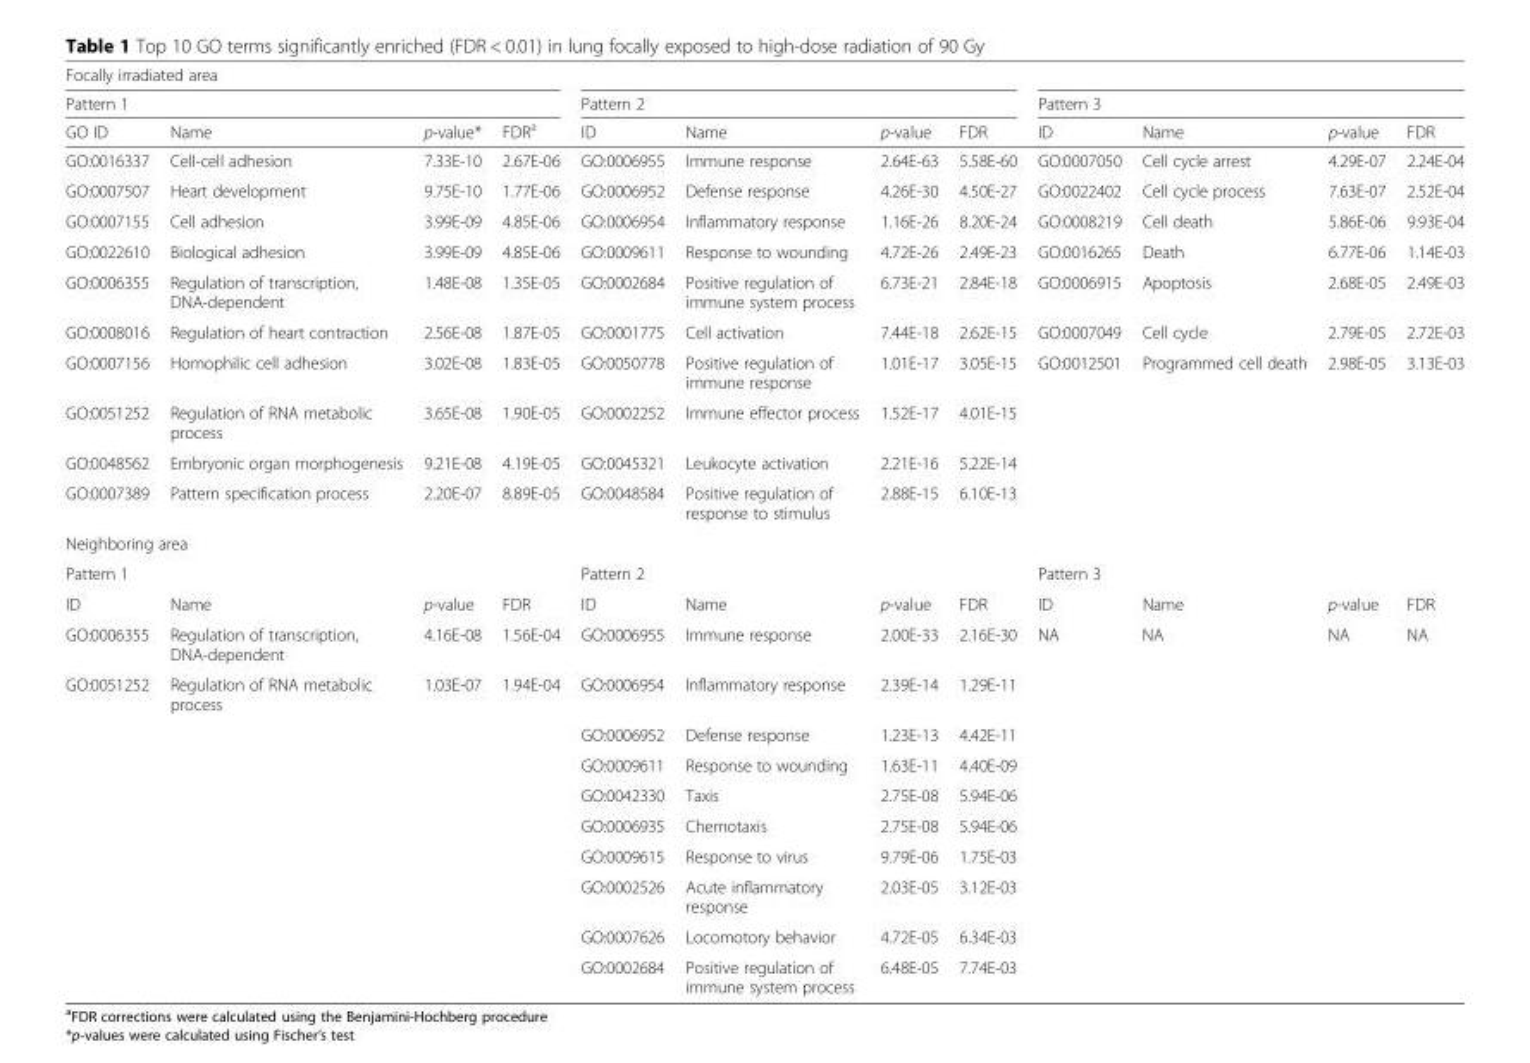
<table><thead><tr><td rowspan="2" colspan="4">Focally irradiated area Pattern 1</td><td></td><td></td><td></td><td></td><td></td><td></td><td></td><td></td></tr><tr><td colspan="4">Pattern 2</td><td colspan="4">Pattern 3</td></tr><tr><td>GO ID</td><td>Name</td><td>p-value*</td><td>FDR<sup>a</sup></td><td>ID</td><td>Name</td><td>p-value</td><td>FDR</td><td>ID</td><td>Name</td><td>p-value</td><td>FDR</td></tr></thead><tbody><tr><td>GO:0016337</td><td>Cell-cell adhesion</td><td>7.33E-10</td><td>2.67E-06</td><td>GO:0006955</td><td>Immune response</td><td>2.64E-63</td><td>5.58E-60</td><td>GO:0007050</td><td>Cell cycle arrest</td><td>4.29E-07</td><td>2.24E-04</td></tr><tr><td>GO:0007507</td><td>Heart development</td><td>9.75E-10</td><td>1.77E-06</td><td>GO:0006952</td><td>Defense response</td><td>4.26E-30</td><td>4.50E-27</td><td>GO:0022402</td><td>Cell cycle process</td><td>7.63E-07</td><td>2.52E-04</td></tr><tr><td>GO:0007155</td><td>Cell adhesion</td><td>3.99E-09</td><td>4.85E-06</td><td>GO:0006954</td><td>Inflammatory response</td><td>1.16E-26</td><td>8.20E-24</td><td>GO:0008219</td><td>Cell death</td><td>5.86E-06</td><td>9.93E-04</td></tr><tr><td>GO:0022610</td><td>Biological adhesion</td><td>3.99E-09</td><td>4.85E-06</td><td>GO:0009611</td><td>Response to wounding</td><td>4.72E-26</td><td>2.49E-23</td><td>GO:0016265</td><td>Death</td><td>6.77E-06</td><td>1.14E-03</td></tr><tr><td>GO:0006355</td><td>Regulation of transcription, DNA-dependent</td><td>1.48E-08</td><td>1.35E-05</td><td>GO:0002684</td><td>Positive regulation of immune system process</td><td>6.73E-21</td><td>2.84E-18</td><td>GO:0006915</td><td>Apoptosis</td><td>2.68E-05</td><td>2.49E-03</td></tr><tr><td>GO:0008016</td><td>Regulation of heart contraction</td><td>2.56E-08</td><td>1.87E-05</td><td>GO:0001775</td><td>Cell activation</td><td>7.44E-18</td><td>2.62E-15</td><td>GO:0007049</td><td>Cell cycle</td><td>2.79E-05</td><td>2.72E-03</td></tr><tr><td>GO:0007156</td><td>Homophilic cell adhesion</td><td>3.02E-08</td><td>1.83E-05</td><td>GO:0050778</td><td>Positive regulation of immune response</td><td>1.01E-17</td><td>3.05E-15</td><td>GO:0012501</td><td>Programmed cell death</td><td>2.98E-05</td><td>3.13E-03</td></tr><tr><td>GO:0051252</td><td>Regulation of RNA metabolic process</td><td>3.65E-08</td><td>1.90E-05</td><td>GO:0002252</td><td>Immune effector process</td><td>1.52E-17</td><td>4.01E-15</td><td></td><td></td><td></td><td></td></tr><tr><td>GO:0048562</td><td>Embryonic organ morphogenesis</td><td>9.21E-08</td><td>4.19E-05</td><td>GO:0045321</td><td>Leukocyte activation</td><td>2.21E-16</td><td>5.22E-14</td><td></td><td></td><td></td><td></td></tr><tr><td>GO:0007389</td><td>Pattern specification process</td><td>2.20E-07</td><td>8.89E-05</td><td>GO:0048584</td><td>Positive regulation of response to stimulus</td><td>2.88E-15</td><td>6.10E-13</td><td></td><td></td><td></td><td></td></tr><tr><td colspan="12">Neighboring area</td></tr><tr><td colspan="4">Pattern 1</td><td colspan="4">Pattern 2</td><td colspan="4">Pattern 3</td></tr><tr><td>ID</td><td>Name</td><td>p-value</td><td>FDR</td><td>ID</td><td>Name</td><td>p-value</td><td>FDR</td><td>ID</td><td>Name</td><td>p-value</td><td>FDR</td></tr><tr><td>GO:0006355</td><td>Regulation of transcription, DNA-dependent</td><td>4.16E-08</td><td>1.56E-04</td><td>GO:0006955</td><td>Immune response</td><td>2.00E-33</td><td>2.16E-30</td><td>NA</td><td>NA</td><td>NA</td><td>NA</td></tr><tr><td rowspan="9">GO:0051252</td><td>Regulation of RNA metabolic process</td><td>1.03E-07</td><td>1.94E-04</td><td>GO:0006954</td><td>Inflammatory response</td><td>2.39E-14</td><td>1.29E-11</td><td></td><td></td><td></td><td></td></tr><tr><td></td><td></td><td></td><td>GO:0006952</td><td>Defense response</td><td>1.23E-13</td><td>4.42E-11</td><td></td><td></td><td></td><td></td></tr><tr><td></td><td></td><td></td><td>GO:0009611</td><td>Response to wounding</td><td>1.63E-11</td><td>4.40E-09</td><td></td><td></td><td></td><td></td></tr><tr><td></td><td></td><td></td><td>GO:0042330</td><td>Taxis</td><td>2.75E-08</td><td>5.94E-06</td><td></td><td></td><td></td><td></td></tr><tr><td></td><td></td><td></td><td>GO:0006935</td><td>Chemotaxis</td><td>2.75E-08</td><td>5.94E-06</td><td></td><td></td><td></td><td></td></tr><tr><td></td><td></td><td></td><td>GO:0009615</td><td>Response to virus</td><td>9.79E-06</td><td>1.75E-03</td><td></td><td></td><td></td><td></td></tr><tr><td></td><td></td><td></td><td>GO:0002526</td><td>Acute inflammatory response</td><td>2.03E-05</td><td>3.12E-03</td><td></td><td></td><td></td><td></td></tr><tr><td></td><td></td><td></td><td>GO:0007626</td><td>Locomotory behavior</td><td>4.72E-05</td><td>6.34E-03</td><td></td><td></td><td></td><td></td></tr><tr><td></td><td></td><td></td><td>GO:0002684</td><td>Positive regulation of immune system process</td><td>6.48E-05</td><td>7.74E-03</td><td></td><td></td><td></td><td></td></tr></tbody></table>